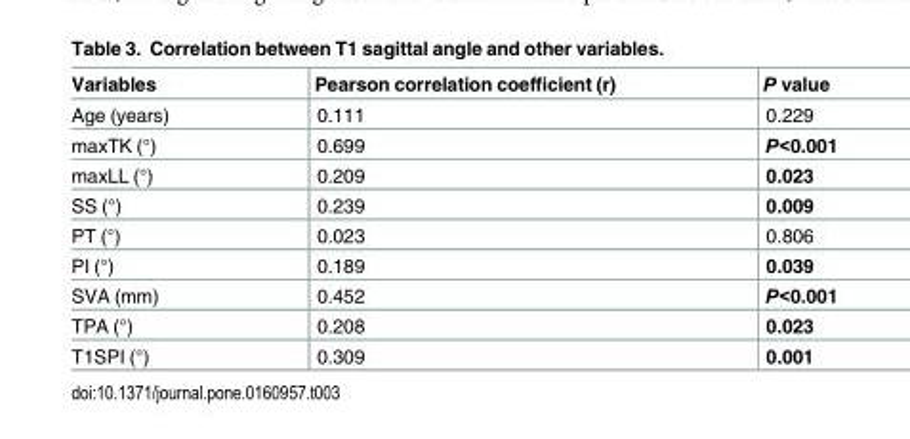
<table><thead><tr><td>Variables</td><td>Pearson correlation coefficient (r)</td><td>P value</td></tr></thead><tbody><tr><td>Age (years)</td><td>0.111</td><td>0.229</td></tr><tr><td>maxTK (°)</td><td>0.699</td><td>P&lt;0.001</td></tr><tr><td>maxLL (°)</td><td>0.209</td><td>0.023</td></tr><tr><td>SS (°)</td><td>0.239</td><td>0.009</td></tr><tr><td>PT (°)</td><td>0.023</td><td>0.806</td></tr><tr><td>PI (°)</td><td>0.189</td><td>0.039</td></tr><tr><td>SVA (mm)</td><td>0.452</td><td>P&lt;0.001</td></tr><tr><td>TPA (°)</td><td>0.208</td><td>0.023</td></tr><tr><td>T1SPI (°)</td><td>0.309</td><td>0.001</td></tr></tbody></table>